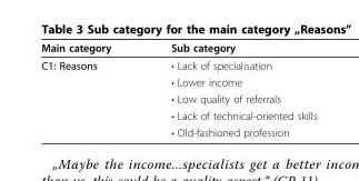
<table><thead><tr><td>Main category</td><td>Sub category</td></tr></thead><tbody><tr><td rowspan="5">C1: Reasons</td><td>• Lack of specialisation</td></tr><tr><td>• Lower income</td></tr><tr><td>• Low quality of referrals</td></tr><tr><td>• Lack of technical-oriented skills</td></tr><tr><td>• Old-fashioned profession</td></tr></tbody></table>